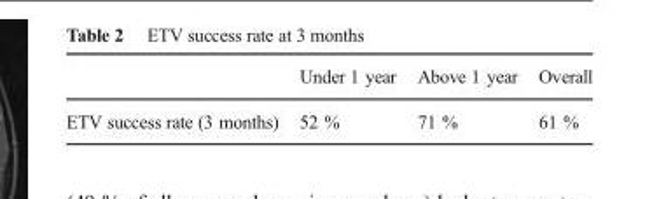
<table><thead><tr><td></td><td>Under 1 year</td><td>Above 1 year</td><td>Overall</td></tr></thead><tbody><tr><td>ETV success rate (3 months)</td><td>52 %</td><td>71 %</td><td>61 %</td></tr></tbody></table>